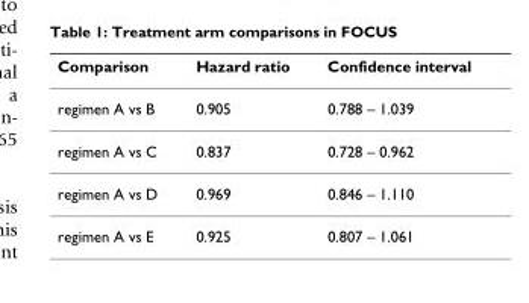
<table><thead><tr><td>Comparison</td><td>Hazard ratio</td><td>Confidence interval</td></tr></thead><tbody><tr><td>regimen A vs B</td><td>0.905</td><td>0.788 – 1.039</td></tr><tr><td>regimen A vs C</td><td>0.837</td><td>0.728 – 0.962</td></tr><tr><td>regimen A vs D</td><td>0.969</td><td>0.846 – 1.110</td></tr><tr><td>regimen A vs E</td><td>0.925</td><td>0.807 – 1.061</td></tr></tbody></table>